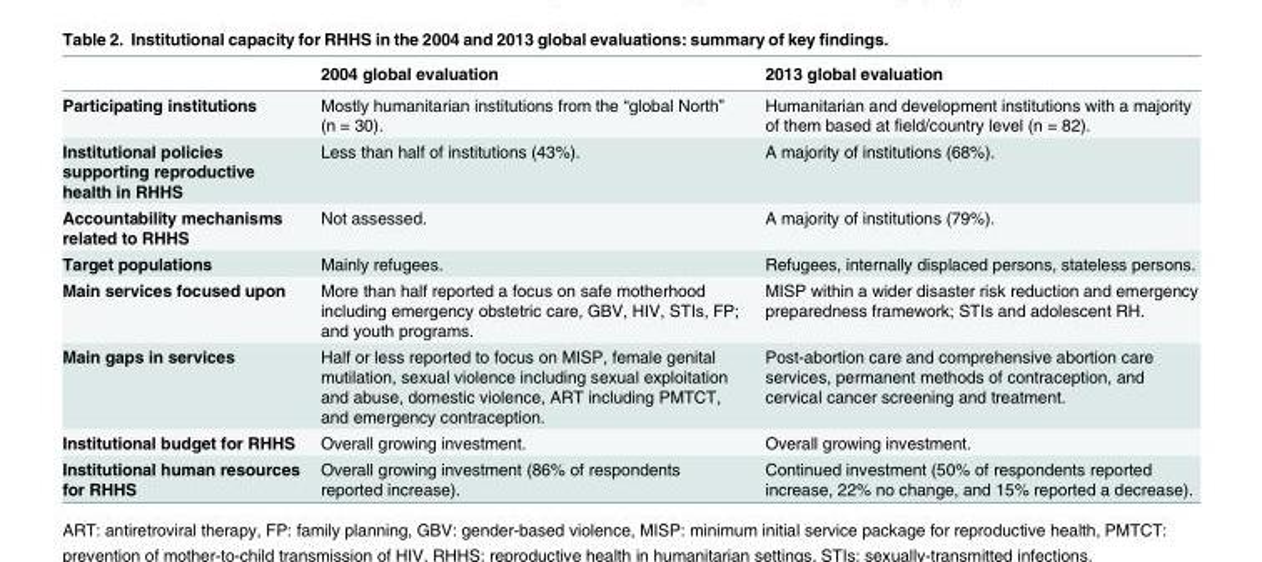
<table><thead><tr><td></td><td>2004 global evaluation</td><td>2013 global evaluation</td></tr></thead><tbody><tr><td>Participating institutions</td><td>Mostly humanitarian institutions from the “global North” (n = 30).</td><td>Humanitarian and development institutions with a majority of them based at field/country level (n = 82).</td></tr><tr><td>Institutional policies supporting reproductive health in RHHS</td><td>Less than half of institutions (43%).</td><td>A majority of institutions (68%).</td></tr><tr><td>Accountability mechanisms related to RHHS</td><td>Not assessed.</td><td>A majority of institutions (79%).</td></tr><tr><td>Target populations</td><td>Mainly refugees.</td><td>Refugees, internally displaced persons, stateless persons.</td></tr><tr><td>Main services focused upon</td><td>More than half reported a focus on safe motherhood including emergency obstetric care, GBV, HIV, STIs, FP; and youth programs.</td><td>MISP within a wider disaster risk reduction and emergency preparedness framework; STIs and adolescent RH.</td></tr><tr><td>Main gaps in services</td><td>Half or less reported to focus on MISP, female genital mutilation, sexual violence including sexual exploitation and abuse, domestic violence, ART including PMTCT, and emergency contraception.</td><td>Post-abortion care and comprehensive abortion care services, permanent methods of contraception, and cervical cancer screening and treatment.</td></tr><tr><td>Institutional budget for RHHS</td><td>Overall growing investment.</td><td>Overall growing investment.</td></tr><tr><td>Institutional human resources for RHHS</td><td>Overall growing investment (86% of respondents reported increase).</td><td>Continued investment (50% of respondents reported increase, 22% no change, and 15% reported a decrease).</td></tr></tbody></table>